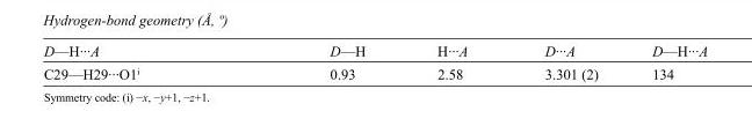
<table><tbody><tr><td>D—H···A</td><td>D—H</td><td>H···A</td><td>D···A</td><td>D—H···A</td></tr><tr><td>C29—H29···O1<sup>i</sup></td><td>0.93</td><td>2.58</td><td>3.301 (2)</td><td>134</td></tr></tbody></table>